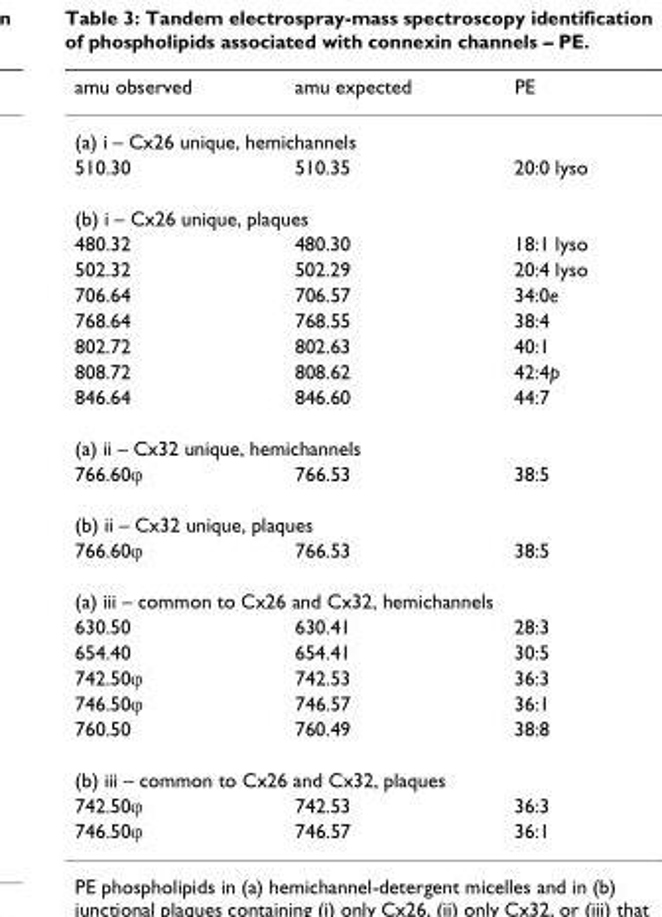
<table><thead><tr><td>amu observed</td><td>amu expected</td><td>PE</td></tr></thead><tbody><tr><td colspan="3">(a) i – Cx26 unique, hemichannels</td></tr><tr><td>510.30</td><td>510.35</td><td>20:0 lyso</td></tr><tr><td colspan="3">(b) i – Cx26 unique, plaques</td></tr><tr><td>480.32</td><td>480.30</td><td>18:1 lyso</td></tr><tr><td>502.32</td><td>502.29</td><td>20:4 lyso</td></tr><tr><td>706.64</td><td>706.57</td><td>34:0e</td></tr><tr><td>768.64</td><td>768.55</td><td>38:4</td></tr><tr><td>802.72</td><td>802.63</td><td>40:1</td></tr><tr><td>808.72</td><td>808.62</td><td>42:4p</td></tr><tr><td>846.64</td><td>846.60</td><td>44:7</td></tr><tr><td colspan="3">(a) ii – Cx32 unique, hemichannels</td></tr><tr><td>766.60ϕ</td><td>766.53</td><td>38:5</td></tr><tr><td colspan="3">(b) ii – Cx32 unique, plaques</td></tr><tr><td>766.60ϕ</td><td>766.53</td><td>38:5</td></tr><tr><td colspan="3">(a) iii – common to Cx26 and Cx32, hemichannels</td></tr><tr><td>630.50</td><td>630.41</td><td>28:3</td></tr><tr><td>654.40</td><td>654.41</td><td>30:5</td></tr><tr><td>742.50ϕ</td><td>742.53</td><td>36:3</td></tr><tr><td>746.50ϕ</td><td>746.57</td><td>36:1</td></tr><tr><td>760.50</td><td>760.49</td><td>38:8</td></tr><tr><td colspan="3">(b) iii – common to Cx26 and Cx32, plaques</td></tr><tr><td>742.50ϕ</td><td>742.53</td><td>36:3</td></tr><tr><td>746.50ϕ</td><td>746.57</td><td>36:1</td></tr></tbody></table>